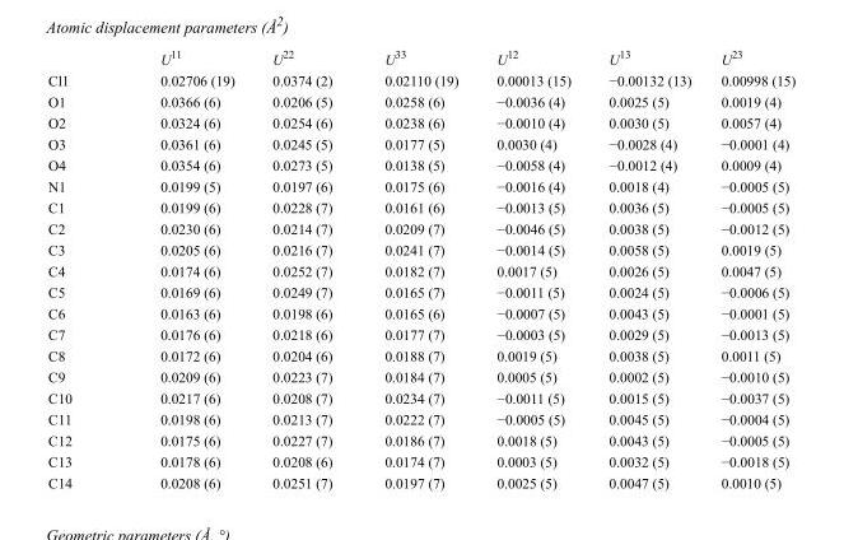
<table><thead><tr><td></td><td>U<sup>11</sup></td><td>U<sup>22</sup></td><td>U<sup>33</sup></td><td>U<sup>12</sup></td><td>U<sup>13</sup></td><td>U<sup>23</sup></td></tr></thead><tbody><tr><td>Cl1</td><td>0.02706 (19)</td><td>0.0374 (2)</td><td>0.02110 (19)</td><td>0.00013 (15)</td><td>−0.00132 (13)</td><td>0.00998 (15)</td></tr><tr><td>O1</td><td>0.0366 (6)</td><td>0.0206 (5)</td><td>0.0258 (6)</td><td>−0.0036 (4)</td><td>0.0025 (5)</td><td>0.0019 (4)</td></tr><tr><td>O2</td><td>0.0324 (6)</td><td>0.0254 (6)</td><td>0.0238 (6)</td><td>−0.0010 (4)</td><td>0.0030 (5)</td><td>0.0057 (4)</td></tr><tr><td>O3</td><td>0.0361 (6)</td><td>0.0245 (5)</td><td>0.0177 (5)</td><td>0.0030 (4)</td><td>−0.0028 (4)</td><td>−0.0001 (4)</td></tr><tr><td>O4</td><td>0.0354 (6)</td><td>0.0273 (5)</td><td>0.0138 (5)</td><td>−0.0058 (4)</td><td>−0.0012 (4)</td><td>0.0009 (4)</td></tr><tr><td>N1</td><td>0.0199 (5)</td><td>0.0197 (6)</td><td>0.0175 (6)</td><td>−0.0016 (4)</td><td>0.0018 (4)</td><td>−0.0005 (5)</td></tr><tr><td>C1</td><td>0.0199 (6)</td><td>0.0228 (7)</td><td>0.0161 (6)</td><td>−0.0013 (5)</td><td>0.0036 (5)</td><td>−0.0005 (5)</td></tr><tr><td>C2</td><td>0.0230 (6)</td><td>0.0214 (7)</td><td>0.0209 (7)</td><td>−0.0046 (5)</td><td>0.0038 (5)</td><td>−0.0012 (5)</td></tr><tr><td>C3</td><td>0.0205 (6)</td><td>0.0216 (7)</td><td>0.0241 (7)</td><td>−0.0014 (5)</td><td>0.0058 (5)</td><td>0.0019 (5)</td></tr><tr><td>C4</td><td>0.0174 (6)</td><td>0.0252 (7)</td><td>0.0182 (7)</td><td>0.0017 (5)</td><td>0.0026 (5)</td><td>0.0047 (5)</td></tr><tr><td>C5</td><td>0.0169 (6)</td><td>0.0249 (7)</td><td>0.0165 (7)</td><td>−0.0011 (5)</td><td>0.0024 (5)</td><td>−0.0006 (5)</td></tr><tr><td>C6</td><td>0.0163 (6)</td><td>0.0198 (6)</td><td>0.0165 (6)</td><td>−0.0007 (5)</td><td>0.0043 (5)</td><td>−0.0001 (5)</td></tr><tr><td>C7</td><td>0.0176 (6)</td><td>0.0218 (6)</td><td>0.0177 (7)</td><td>−0.0003 (5)</td><td>0.0029 (5)</td><td>−0.0013 (5)</td></tr><tr><td>C8</td><td>0.0172 (6)</td><td>0.0204 (6)</td><td>0.0188 (7)</td><td>0.0019 (5)</td><td>0.0038 (5)</td><td>0.0011 (5)</td></tr><tr><td>C9</td><td>0.0209 (6)</td><td>0.0223 (7)</td><td>0.0184 (7)</td><td>0.0005 (5)</td><td>0.0002 (5)</td><td>−0.0010 (5)</td></tr><tr><td>C10</td><td>0.0217 (6)</td><td>0.0208 (7)</td><td>0.0234 (7)</td><td>−0.0011 (5)</td><td>0.0015 (5)</td><td>−0.0037 (5)</td></tr><tr><td>C11</td><td>0.0198 (6)</td><td>0.0213 (7)</td><td>0.0222 (7)</td><td>−0.0005 (5)</td><td>0.0045 (5)</td><td>−0.0004 (5)</td></tr><tr><td>C12</td><td>0.0175 (6)</td><td>0.0227 (7)</td><td>0.0186 (7)</td><td>0.0018 (5)</td><td>0.0043 (5)</td><td>−0.0005 (5)</td></tr><tr><td>C13</td><td>0.0178 (6)</td><td>0.0208 (6)</td><td>0.0174 (7)</td><td>0.0003 (5)</td><td>0.0032 (5)</td><td>−0.0018 (5)</td></tr><tr><td>C14</td><td>0.0208 (6)</td><td>0.0251 (7)</td><td>0.0197 (7)</td><td>0.0025 (5)</td><td>0.0047 (5)</td><td>0.0010 (5)</td></tr></tbody></table>